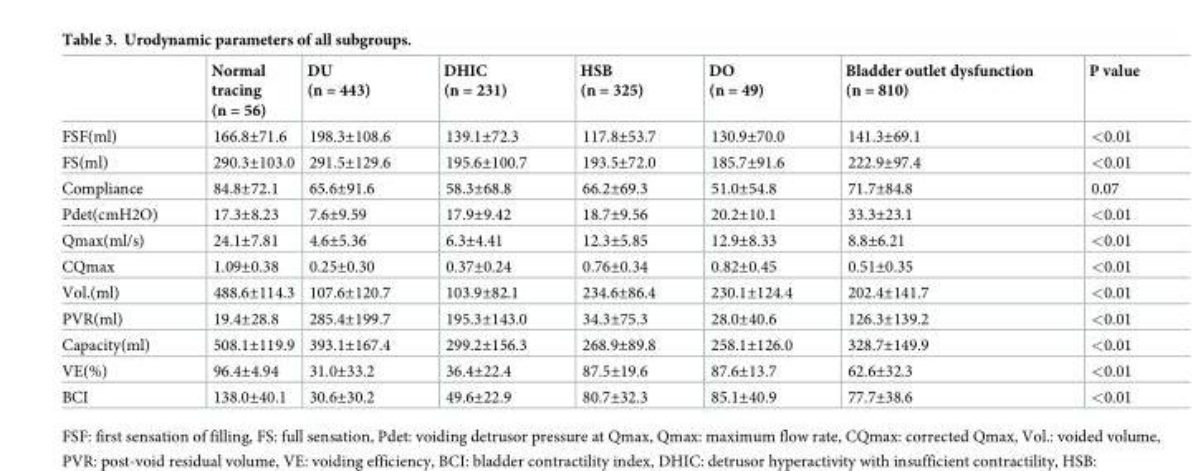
<table><thead><tr><td></td><td>Normal tracing (n = 56)</td><td>DU (n = 443)</td><td>DHIC (n = 231)</td><td>HSB (n = 325)</td><td>DO (n = 49)</td><td>Bladder outlet dysfunction (n = 810)</td><td>P value</td></tr></thead><tbody><tr><td>FSF(ml)</td><td>166.8±71.6</td><td>198.3±108.6</td><td>139.1±72.3</td><td>117.8±53.7</td><td>130.9±70.0</td><td>141.3±69.1</td><td>&lt;0.01</td></tr><tr><td>FS(ml)</td><td>290.3±103.0</td><td>291.5±129.6</td><td>195.6±100.7</td><td>193.5±72.0</td><td>185.7±91.6</td><td>222.9±97.4</td><td>&lt;0.01</td></tr><tr><td>Compliance</td><td>84.8±72.1</td><td>65.6±91.6</td><td>58.3±68.8</td><td>66.2±69.3</td><td>51.0±54.8</td><td>71.7±84.8</td><td>0.07</td></tr><tr><td>Pdet(cmH2O)</td><td>17.3±8.23</td><td>7.6±9.59</td><td>17.9±9.42</td><td>18.7±9.56</td><td>20.2±10.1</td><td>33.3±23.1</td><td>&lt;0.01</td></tr><tr><td>Qmax(ml/s)</td><td>24.1±7.81</td><td>4.6±5.36</td><td>6.3±4.41</td><td>12.3±5.85</td><td>12.9±8.33</td><td>8.8±6.21</td><td>&lt;0.01</td></tr><tr><td>CQmax</td><td>1.09±0.38</td><td>0.25±0.30</td><td>0.37±0.24</td><td>0.76±0.34</td><td>0.82±0.45</td><td>0.51±0.35</td><td>&lt;0.01</td></tr><tr><td>Vol.(ml)</td><td>488.6±114.3</td><td>107.6±120.7</td><td>103.9±82.1</td><td>234.6±86.4</td><td>230.1±124.4</td><td>202.4±141.7</td><td>&lt;0.01</td></tr><tr><td>PVR(ml)</td><td>19.4±28.8</td><td>285.4±199.7</td><td>195.3±143.0</td><td>34.3±75.3</td><td>28.0±40.6</td><td>126.3±139.2</td><td>&lt;0.01</td></tr><tr><td>Capacity(ml)</td><td>508.1±119.9</td><td>393.1±167.4</td><td>299.2±156.3</td><td>268.9±89.8</td><td>258.1±126.0</td><td>328.7±149.9</td><td>&lt;0.01</td></tr><tr><td>VE(%)</td><td>96.4±4.94</td><td>31.0±33.2</td><td>36.4±22.4</td><td>87.5±19.6</td><td>87.6±13.7</td><td>62.6±32.3</td><td>&lt;0.01</td></tr><tr><td>BCI</td><td>138.0±40.1</td><td>30.6±30.2</td><td>49.6±22.9</td><td>80.7±32.3</td><td>85.1±40.9</td><td>77.7±38.6</td><td>&lt;0.01</td></tr></tbody></table>